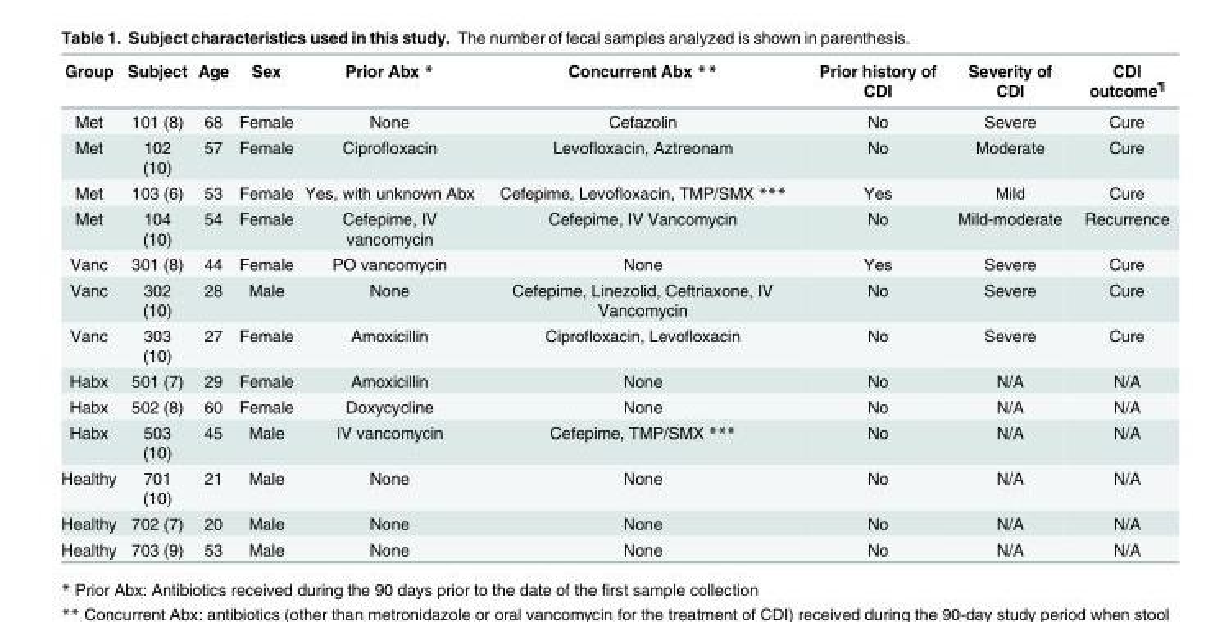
<table><thead><tr><td>Group</td><td>Subject</td><td>Age</td><td>Sex</td><td>Prior Abx *</td><td>Concurrent Abx **</td><td>Prior history of CDI</td><td>Severity of CDI</td><td>CDI outcome<sup>¶</sup></td></tr></thead><tbody><tr><td>Met</td><td>101 (8)</td><td>68</td><td>Female</td><td>None</td><td>Cefazolin</td><td>No</td><td>Severe</td><td>Cure</td></tr><tr><td>Met</td><td>102 (10)</td><td>57</td><td>Female</td><td>Ciprofloxacin</td><td>Levofloxacin, Aztreonam</td><td>No</td><td>Moderate</td><td>Cure</td></tr><tr><td>Met</td><td>103 (6)</td><td>53</td><td>Female</td><td>Yes, with unknown Abx</td><td>Cefepime, Levofloxacin, TMP/SMX ***</td><td>Yes</td><td>Mild</td><td>Cure</td></tr><tr><td>Met</td><td>104 (10)</td><td>54</td><td>Female</td><td>Cefepime, IV vancomycin</td><td>Cefepime, IV Vancomycin</td><td>No</td><td>Mild-moderate</td><td>Recurrence</td></tr><tr><td>Vanc</td><td>301 (8)</td><td>44</td><td>Female</td><td>PO vancomycin</td><td>None</td><td>Yes</td><td>Severe</td><td>Cure</td></tr><tr><td>Vanc</td><td>302 (10)</td><td>28</td><td>Male</td><td>None</td><td>Cefepime, Linezolid, Ceftriaxone, IV Vancomycin</td><td>No</td><td>Severe</td><td>Cure</td></tr><tr><td>Vanc</td><td>303 (10)</td><td>27</td><td>Female</td><td>Amoxicillin</td><td>Ciprofloxacin, Levofloxacin</td><td>No</td><td>Severe</td><td>Cure</td></tr><tr><td>Habx</td><td>501 (7)</td><td>29</td><td>Female</td><td>Amoxicillin</td><td>None</td><td>No</td><td>N/A</td><td>N/A</td></tr><tr><td>Habx</td><td>502 (8)</td><td>60</td><td>Female</td><td>Doxycycline</td><td>None</td><td>No</td><td>N/A</td><td>N/A</td></tr><tr><td>Habx</td><td>503 (10)</td><td>45</td><td>Male</td><td>IV vancomycin</td><td>Cefepime, TMP/SMX ***</td><td>No</td><td>N/A</td><td>N/A</td></tr><tr><td>Healthy</td><td>701 (10)</td><td>21</td><td>Male</td><td>None</td><td>None</td><td>No</td><td>N/A</td><td>N/A</td></tr><tr><td>Healthy</td><td>702 (7)</td><td>20</td><td>Male</td><td>None</td><td>None</td><td>No</td><td>N/A</td><td>N/A</td></tr><tr><td>Healthy</td><td>703 (9)</td><td>53</td><td>Male</td><td>None</td><td>None</td><td>No</td><td>N/A</td><td>N/A</td></tr></tbody></table>